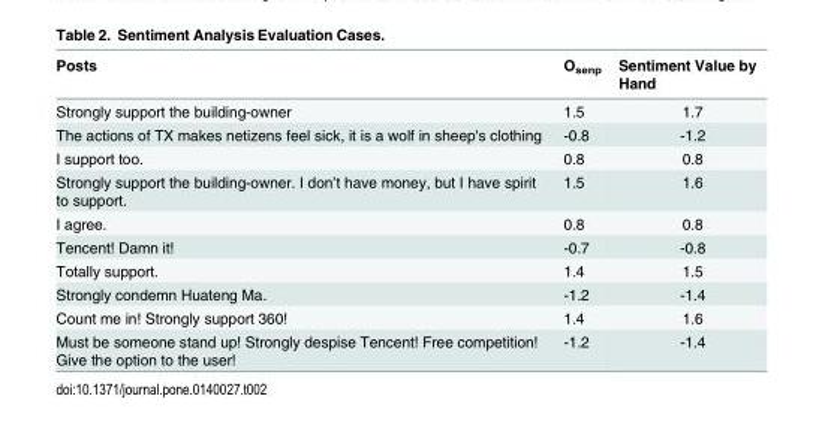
<table><thead><tr><td>Posts</td><td>O<sub>senp</sub></td><td>Sentiment Value by Hand</td></tr></thead><tbody><tr><td>Strongly support the building-owner</td><td>1.5</td><td>1.7</td></tr><tr><td>The actions of TX makes netizens feel sick, it is a wolf in sheep&#x27;s clothing</td><td>-0.8</td><td>-1.2</td></tr><tr><td>I support too.</td><td>0.8</td><td>0.8</td></tr><tr><td>Strongly support the building-owner. I don’t have money, but I have spirit to support.</td><td>1.5</td><td>1.6</td></tr><tr><td>I agree.</td><td>0.8</td><td>0.8</td></tr><tr><td>Tencent! Damn it!</td><td>-0.7</td><td>-0.8</td></tr><tr><td>Totally support.</td><td>1.4</td><td>1.5</td></tr><tr><td>Strongly condemn Huateng Ma.</td><td>-1.2</td><td>-1.4</td></tr><tr><td>Count me in! Strongly support 360!</td><td>1.4</td><td>1.6</td></tr><tr><td>Must be someone stand up! Strongly despise Tencent! Free competition! Give the option to the user!</td><td>-1.2</td><td>-1.4</td></tr></tbody></table>